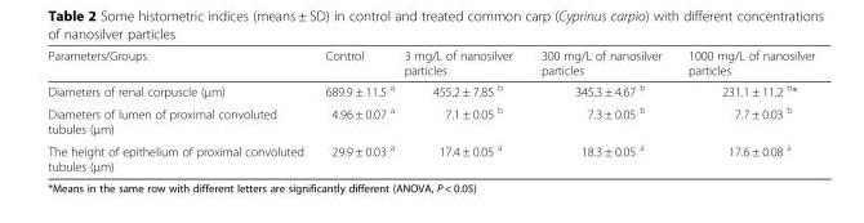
<table><thead><tr><td>Parameters/Groups</td><td>Control</td><td>3 mg/L of nanosilver particles</td><td>300 mg/L of nanosilver particles</td><td>1000 mg/L of nanosilver particles</td></tr></thead><tbody><tr><td>Diameters of renal corpuscle (μm)</td><td>689.9 ± 11.5 a</td><td>455.2 ± 7.85 b</td><td>345.3 ± 4.67 b</td><td>231.1 ± 11.2 b*</td></tr><tr><td>Diameters of lumen of proximal convoluted tubules (μm)</td><td>4.96 ± 0.07 a</td><td>7.1 ± 0.05 b</td><td>7.3 ± 0.05 b</td><td>7.7 ± 0.03 b</td></tr><tr><td>The height of epithelium of proximal convoluted tubules (μm)</td><td>29.9 ± 0.03 a</td><td>17.4 ± 0.05 a</td><td>18.3 ± 0.05 a</td><td>17.6 ± 0.08 a</td></tr></tbody></table>